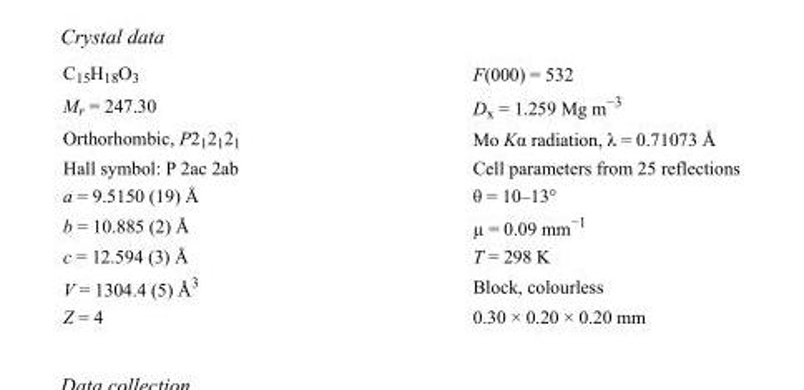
<table><tbody><tr><td>C<sub>15</sub>H<sub>18</sub>O<sub>3</sub></td><td>F(000) = 532</td></tr><tr><td>M<sub>r</sub> = 247.30</td><td>D<sub>x</sub> = 1.259 Mg m<sup>−3</sup></td></tr><tr><td>Orthorhombic, P2<sub>1</sub>2<sub>1</sub>2<sub>1</sub></td><td>Mo Kα radiation, λ = 0.71073 Å</td></tr><tr><td>Hall symbol: P 2ac 2ab</td><td>Cell parameters from 25 reflections</td></tr><tr><td>a = 9.5150 (19) Å</td><td>θ = 10–13°</td></tr><tr><td>b = 10.885 (2) Å</td><td>µ = 0.09 mm<sup>−1</sup></td></tr><tr><td>c = 12.594 (3) Å</td><td>T = 298 K</td></tr><tr><td>V = 1304.4 (5) Å<sup>3</sup></td><td>Block, colourless</td></tr><tr><td>Z = 4</td><td>0.30 × 0.20 × 0.20 mm</td></tr></tbody></table>